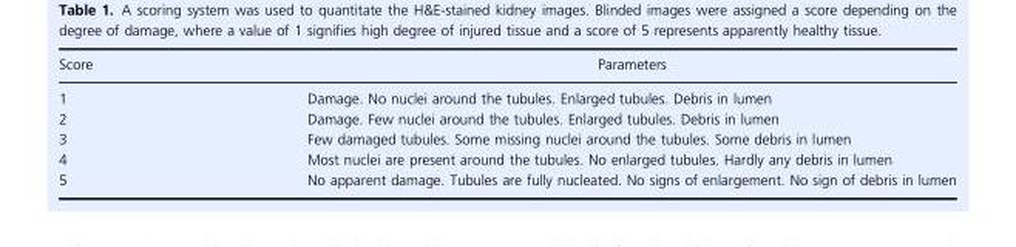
<table><thead><tr><td>Score</td><td>Parameters</td></tr></thead><tbody><tr><td>1</td><td>Damage. No nuclei around the tubules. Enlarged tubules. Debris in lumen</td></tr><tr><td>2</td><td>Damage. Few nuclei around the tubules. Enlarged tubules. Debris in lumen</td></tr><tr><td>3</td><td>Few damaged tubules. Some missing nuclei around the tubules. Some debris in lumen</td></tr><tr><td>4</td><td>Most nuclei are present around the tubules. No enlarged tubules. Hardly any debris in lumen</td></tr><tr><td>5</td><td>No apparent damage. Tubules are fully nucleated. No signs of enlargement. No sign of debris in lumen</td></tr></tbody></table>